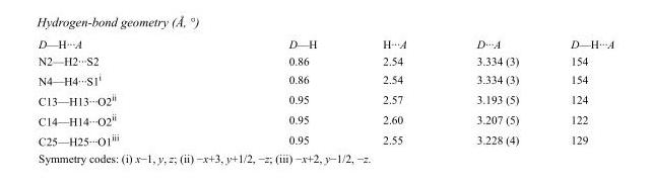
<table><tbody><tr><td>D—H···A</td><td>D—H</td><td>H···A</td><td>D···A</td><td>D—H···A</td></tr><tr><td>N2—H2···S2</td><td>0.86</td><td>2.54</td><td>3.334 (3)</td><td>154</td></tr><tr><td>N4—H4···S1<sup>i</sup></td><td>0.86</td><td>2.54</td><td>3.334 (3)</td><td>154</td></tr><tr><td>C13—H13···O2<sup>ii</sup></td><td>0.95</td><td>2.57</td><td>3.193 (5)</td><td>124</td></tr><tr><td>C14—H14···O2<sup>ii</sup></td><td>0.95</td><td>2.60</td><td>3.207 (5)</td><td>122</td></tr><tr><td>C25—H25···O1<sup>iii</sup></td><td>0.95</td><td>2.55</td><td>3.228 (4)</td><td>129</td></tr></tbody></table>